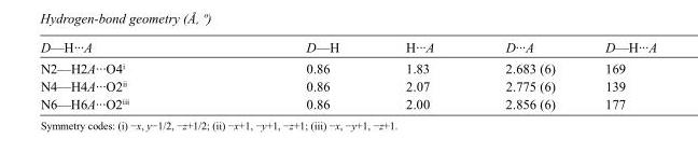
<table><tbody><tr><td>D—H···A</td><td>D—H</td><td>H···A</td><td>D···A</td><td>D—H···A</td></tr><tr><td>N2—H2A···O4<sup>i</sup></td><td>0.86</td><td>1.83</td><td>2.683 (6)</td><td>169</td></tr><tr><td>N4—H4A···O2<sup>ii</sup></td><td>0.86</td><td>2.07</td><td>2.775 (6)</td><td>139</td></tr><tr><td>N6—H6A···O2<sup>iii</sup></td><td>0.86</td><td>2.00</td><td>2.856 (6)</td><td>177</td></tr></tbody></table>